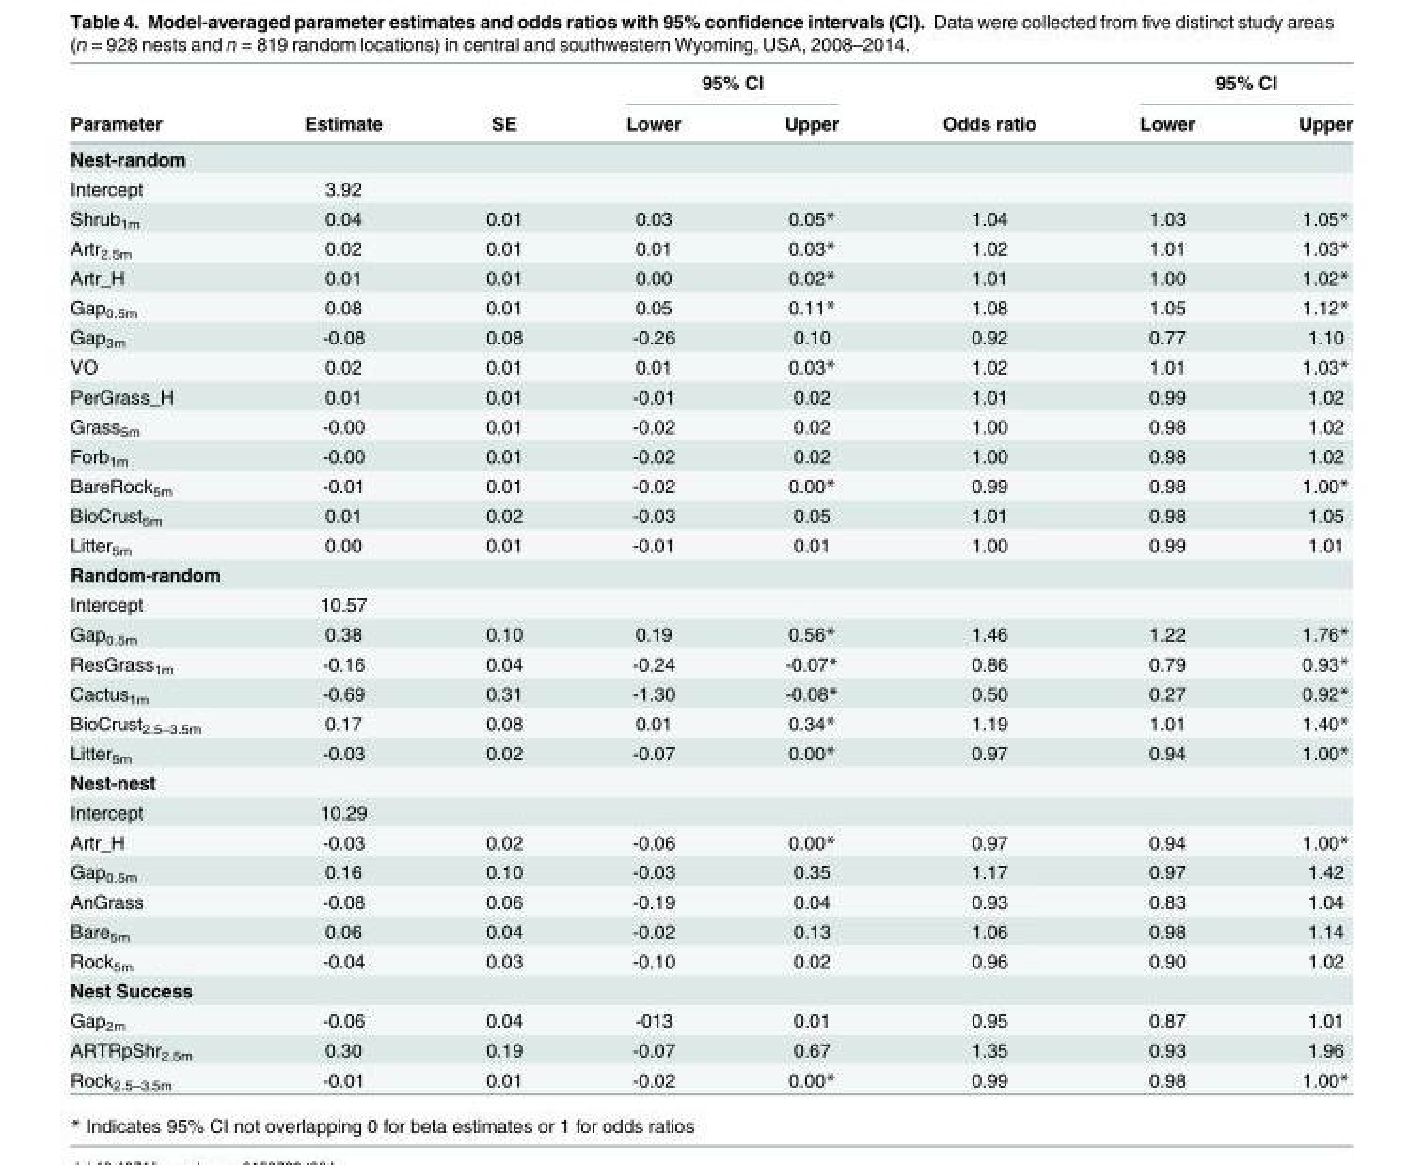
<table><thead><tr><td rowspan="2">Parameter</td><td rowspan="2">Estimate</td><td rowspan="2">SE</td><td colspan="2">95% CI</td><td rowspan="2">Odds ratio</td><td colspan="2">95% CI</td></tr><tr><td>Lower</td><td>Upper</td><td>Lower</td><td>Upper</td></tr></thead><tbody><tr><td colspan="8">Nest-random</td></tr><tr><td>Intercept</td><td>3.92</td><td></td><td></td><td></td><td></td><td></td><td></td></tr><tr><td>Shrub<sub>1m</sub></td><td>0.04</td><td>0.01</td><td>0.03</td><td>0.05*</td><td>1.04</td><td>1.03</td><td>1.05*</td></tr><tr><td>Artr<sub>2.5m</sub></td><td>0.02</td><td>0.01</td><td>0.01</td><td>0.03*</td><td>1.02</td><td>1.01</td><td>1.03*</td></tr><tr><td>Artr_H</td><td>0.01</td><td>0.01</td><td>0.00</td><td>0.02*</td><td>1.01</td><td>1.00</td><td>1.02*</td></tr><tr><td>Gap<sub>0.5m</sub></td><td>0.08</td><td>0.01</td><td>0.05</td><td>0.11*</td><td>1.08</td><td>1.05</td><td>1.12*</td></tr><tr><td>Gap<sub>3m</sub></td><td>-0.08</td><td>0.08</td><td>-0.26</td><td>0.10</td><td>0.92</td><td>0.77</td><td>1.10</td></tr><tr><td>VO</td><td>0.02</td><td>0.01</td><td>0.01</td><td>0.03*</td><td>1.02</td><td>1.01</td><td>1.03*</td></tr><tr><td>PerGrass_H</td><td>0.01</td><td>0.01</td><td>-0.01</td><td>0.02</td><td>1.01</td><td>0.99</td><td>1.02</td></tr><tr><td>Grass<sub>5m</sub></td><td>-0.00</td><td>0.01</td><td>-0.02</td><td>0.02</td><td>1.00</td><td>0.98</td><td>1.02</td></tr><tr><td>Forb<sub>1m</sub></td><td>-0.00</td><td>0.01</td><td>-0.02</td><td>0.02</td><td>1.00</td><td>0.98</td><td>1.02</td></tr><tr><td>BareRock<sub>5m</sub></td><td>-0.01</td><td>0.01</td><td>-0.02</td><td>0.00*</td><td>0.99</td><td>0.98</td><td>1.00*</td></tr><tr><td>BioCrust<sub>5m</sub></td><td>0.01</td><td>0.02</td><td>-0.03</td><td>0.05</td><td>1.01</td><td>0.98</td><td>1.05</td></tr><tr><td>Litter<sub>5m</sub></td><td>0.00</td><td>0.01</td><td>-0.01</td><td>0.01</td><td>1.00</td><td>0.99</td><td>1.01</td></tr><tr><td colspan="8">Random-random</td></tr><tr><td>Intercept</td><td>10.57</td><td></td><td></td><td></td><td></td><td></td><td></td></tr><tr><td>Gap<sub>0.5m</sub></td><td>0.38</td><td>0.10</td><td>0.19</td><td>0.56*</td><td>1.46</td><td>1.22</td><td>1.76*</td></tr><tr><td>ResGrass<sub>1m</sub></td><td>-0.16</td><td>0.04</td><td>-0.24</td><td>-0.07*</td><td>0.86</td><td>0.79</td><td>0.93*</td></tr><tr><td>Cactus<sub>1m</sub></td><td>-0.69</td><td>0.31</td><td>-1.30</td><td>-0.08*</td><td>0.50</td><td>0.27</td><td>0.92*</td></tr><tr><td>BioCrust<sub>2.5–3.5m</sub></td><td>0.17</td><td>0.08</td><td>0.01</td><td>0.34*</td><td>1.19</td><td>1.01</td><td>1.40*</td></tr><tr><td>Litter<sub>5m</sub></td><td>-0.03</td><td>0.02</td><td>-0.07</td><td>0.00*</td><td>0.97</td><td>0.94</td><td>1.00*</td></tr><tr><td colspan="8">Nest-nest</td></tr><tr><td>Intercept</td><td>10.29</td><td></td><td></td><td></td><td></td><td></td><td></td></tr><tr><td>Artr_H</td><td>-0.03</td><td>0.02</td><td>-0.06</td><td>0.00*</td><td>0.97</td><td>0.94</td><td>1.00*</td></tr><tr><td>Gap<sub>0.5m</sub></td><td>0.16</td><td>0.10</td><td>-0.03</td><td>0.35</td><td>1.17</td><td>0.97</td><td>1.42</td></tr><tr><td>AnGrass</td><td>-0.08</td><td>0.06</td><td>-0.19</td><td>0.04</td><td>0.93</td><td>0.83</td><td>1.04</td></tr><tr><td>Bare<sub>5m</sub></td><td>0.06</td><td>0.04</td><td>-0.02</td><td>0.13</td><td>1.06</td><td>0.98</td><td>1.14</td></tr><tr><td>Rock<sub>5m</sub></td><td>-0.04</td><td>0.03</td><td>-0.10</td><td>0.02</td><td>0.96</td><td>0.90</td><td>1.02</td></tr><tr><td colspan="8">Nest Success</td></tr><tr><td>Gap<sub>2m</sub></td><td>-0.06</td><td>0.04</td><td>-013</td><td>0.01</td><td>0.95</td><td>0.87</td><td>1.01</td></tr><tr><td>ARTRpShr<sub>2.5m</sub></td><td>0.30</td><td>0.19</td><td>-0.07</td><td>0.67</td><td>1.35</td><td>0.93</td><td>1.96</td></tr><tr><td>Rock<sub>2.5–3.5m</sub></td><td>-0.01</td><td>0.01</td><td>-0.02</td><td>0.00*</td><td>0.99</td><td>0.98</td><td>1.00*</td></tr></tbody></table>